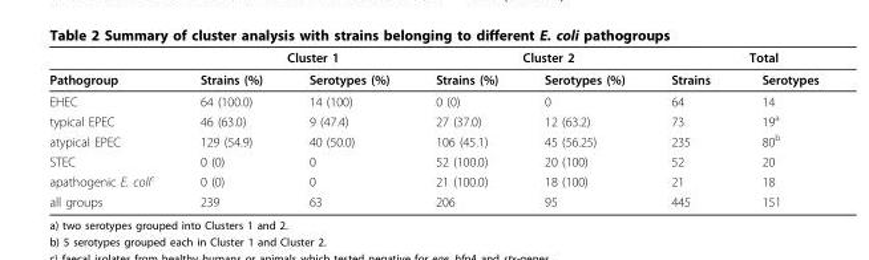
<table><thead><tr><td rowspan="2">Pathogroup</td><td colspan="2">Cluster 1</td><td colspan="2">Cluster 2</td><td colspan="2">Total</td></tr><tr><td>Strains (%)</td><td>Serotypes (%)</td><td>Strains (%)</td><td>Serotypes (%)</td><td>Strains</td><td>Serotypes</td></tr></thead><tbody><tr><td>EHEC</td><td>64 (100.0)</td><td>14 (100)</td><td>0 (0)</td><td>0</td><td>64</td><td>14</td></tr><tr><td>typical EPEC</td><td>46 (63.0)</td><td>9 (47.4)</td><td>27 (37.0)</td><td>12 (63.2)</td><td>73</td><td>19<sup>a</sup></td></tr><tr><td>atypical EPEC</td><td>129 (54.9)</td><td>40 (50.0)</td><td>106 (45.1)</td><td>45 (56.25)</td><td>235</td><td>80<sup>b</sup></td></tr><tr><td>STEC</td><td>0 (0)</td><td>0</td><td>52 (100.0)</td><td>20 (100)</td><td>52</td><td>20</td></tr><tr><td>apathogenic E. coli<sup>c</sup></td><td>0 (0)</td><td>0</td><td>21 (100.0)</td><td>18 (100)</td><td>21</td><td>18</td></tr><tr><td>all groups</td><td>239</td><td>63</td><td>206</td><td>95</td><td>445</td><td>151</td></tr></tbody></table>